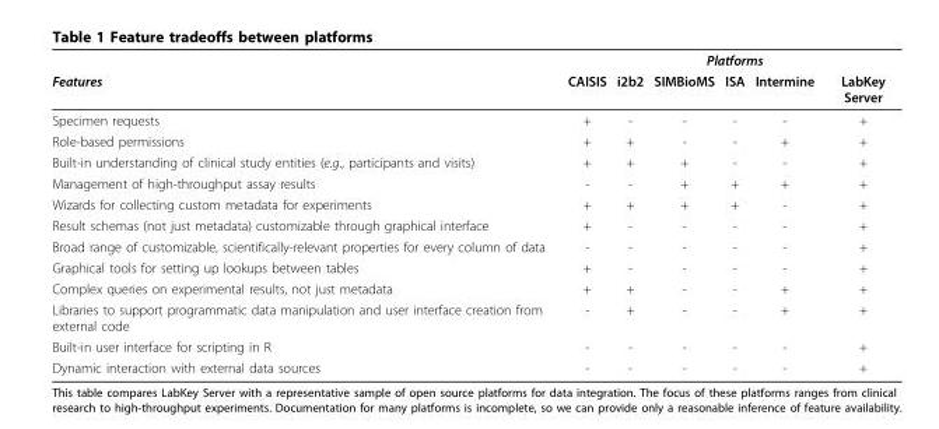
<table><thead><tr><td rowspan="2">Features</td><td colspan="6">Platforms</td></tr><tr><td>CAISIS</td><td>i2b2</td><td>SIMBioMS</td><td>ISA</td><td>Intermine</td><td>LabKey Server</td></tr></thead><tbody><tr><td>Specimen requests</td><td>+</td><td>-</td><td>-</td><td>-</td><td>-</td><td>+</td></tr><tr><td>Role-based permissions</td><td>+</td><td>+</td><td>-</td><td>-</td><td>+</td><td>+</td></tr><tr><td>Built-in understanding of clinical study entities (e.g., participants and visits)</td><td>+</td><td>+</td><td>+</td><td>-</td><td>-</td><td>+</td></tr><tr><td>Management of high-throughput assay results</td><td>-</td><td>-</td><td>+</td><td>+</td><td>+</td><td>+</td></tr><tr><td>Wizards for collecting custom metadata for experiments</td><td>+</td><td>+</td><td>+</td><td>+</td><td>-</td><td>+</td></tr><tr><td>Result schemas (not just metadata) customizable through graphical interface</td><td>+</td><td>-</td><td>-</td><td>-</td><td>-</td><td>+</td></tr><tr><td>Broad range of customizable, scientifically-relevant properties for every column of data</td><td>-</td><td>-</td><td>-</td><td>-</td><td>-</td><td>+</td></tr><tr><td>Graphical tools for setting up lookups between tables</td><td>+</td><td>-</td><td>-</td><td>-</td><td>-</td><td>+</td></tr><tr><td>Complex queries on experimental results, not just metadata</td><td>+</td><td>+</td><td>-</td><td>-</td><td>+</td><td>+</td></tr><tr><td>Libraries to support programmatic data manipulation and user interface creation from external code</td><td>-</td><td>+</td><td>-</td><td>-</td><td>+</td><td>+</td></tr><tr><td>Built-in user interface for scripting in R</td><td>-</td><td>-</td><td>-</td><td>-</td><td>-</td><td>+</td></tr><tr><td>Dynamic interaction with external data sources</td><td>-</td><td>-</td><td>-</td><td>-</td><td>-</td><td>+</td></tr></tbody></table>